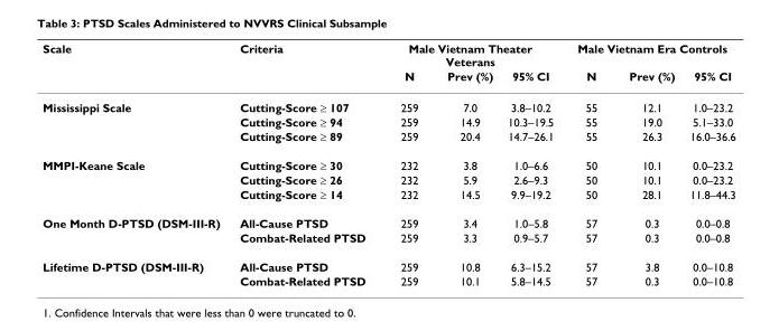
<table><thead><tr><td rowspan="2">Scale</td><td rowspan="2">Criteria</td><td colspan="3">Male Vietnam Theater Veterans</td><td colspan="3">Male Vietnam Era Controls</td></tr><tr><td>N</td><td>Prev (%)</td><td>95% CI</td><td>N</td><td>Prev (%)</td><td>95% CI</td></tr></thead><tbody><tr><td rowspan="3">Mississippi Scale</td><td>Cutting-Score ≥ 107</td><td>259</td><td>7.0</td><td>3.8–10.2</td><td>55</td><td>12.1</td><td>1.0–23.2</td></tr><tr><td>Cutting-Score ≥ 94</td><td>259</td><td>14.9</td><td>10.3–19.5</td><td>55</td><td>19.0</td><td>5.1–33.0</td></tr><tr><td>Cutting-Score ≥ 89</td><td>259</td><td>20.4</td><td>14.7–26.1</td><td>55</td><td>26.3</td><td>16.0–36.6</td></tr><tr><td rowspan="3">MMPI-Keane Scale</td><td>Cutting-Score ≥ 30</td><td>232</td><td>3.8</td><td>1.0–6.6</td><td>50</td><td>10.1</td><td>0.0–23.2</td></tr><tr><td>Cutting-Score ≥ 26</td><td>232</td><td>5.9</td><td>2.6–9.3</td><td>50</td><td>10.1</td><td>0.0–23.2</td></tr><tr><td>Cutting-Score ≥ 14</td><td>232</td><td>14.5</td><td>9.9–19.2</td><td>50</td><td>28.1</td><td>11.8–44.3</td></tr><tr><td rowspan="2">One Month D-PTSD (DSM-III-R)</td><td>All-Cause PTSD</td><td>259</td><td>3.4</td><td>1.0–5.8</td><td>57</td><td>0.3</td><td>0.0–0.8</td></tr><tr><td>Combat-Related PTSD</td><td>259</td><td>3.3</td><td>0.9–5.7</td><td>57</td><td>0.3</td><td>0.0–0.8</td></tr><tr><td rowspan="2">Lifetime D-PTSD (DSM-III-R)</td><td>All-Cause PTSD</td><td>259</td><td>10.8</td><td>6.3–15.2</td><td>57</td><td>3.8</td><td>0.0–10.8</td></tr><tr><td>Combat-Related PTSD</td><td>259</td><td>10.1</td><td>5.8–14.5</td><td>57</td><td>0.3</td><td>0.0–10.8</td></tr></tbody></table>